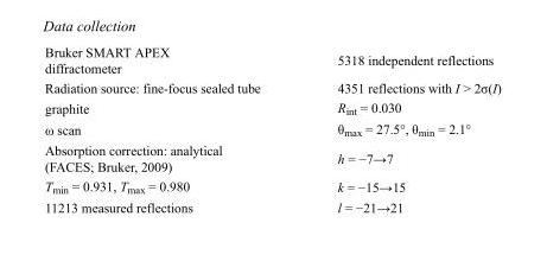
<table><tbody><tr><td>Bruker SMART APEX diffractometer</td><td>5318 independent reflections</td></tr><tr><td>Radiation source: fine-focus sealed tube</td><td>4351 reflections with I &gt; 2σ(I)</td></tr><tr><td>graphite</td><td>R<sub>int</sub> = 0.030</td></tr><tr><td>ω scan</td><td>θ<sub>max</sub> = 27.5°, θ<sub>min</sub> = 2.1°</td></tr><tr><td>Absorption correction: analytical (FACES; Bruker, 2009)</td><td>h = −7→7</td></tr><tr><td>T<sub>min</sub> = 0.931, T<sub>max</sub> = 0.980</td><td>k = −15→15</td></tr><tr><td>11213 measured reflections</td><td>l = −21→21</td></tr></tbody></table>